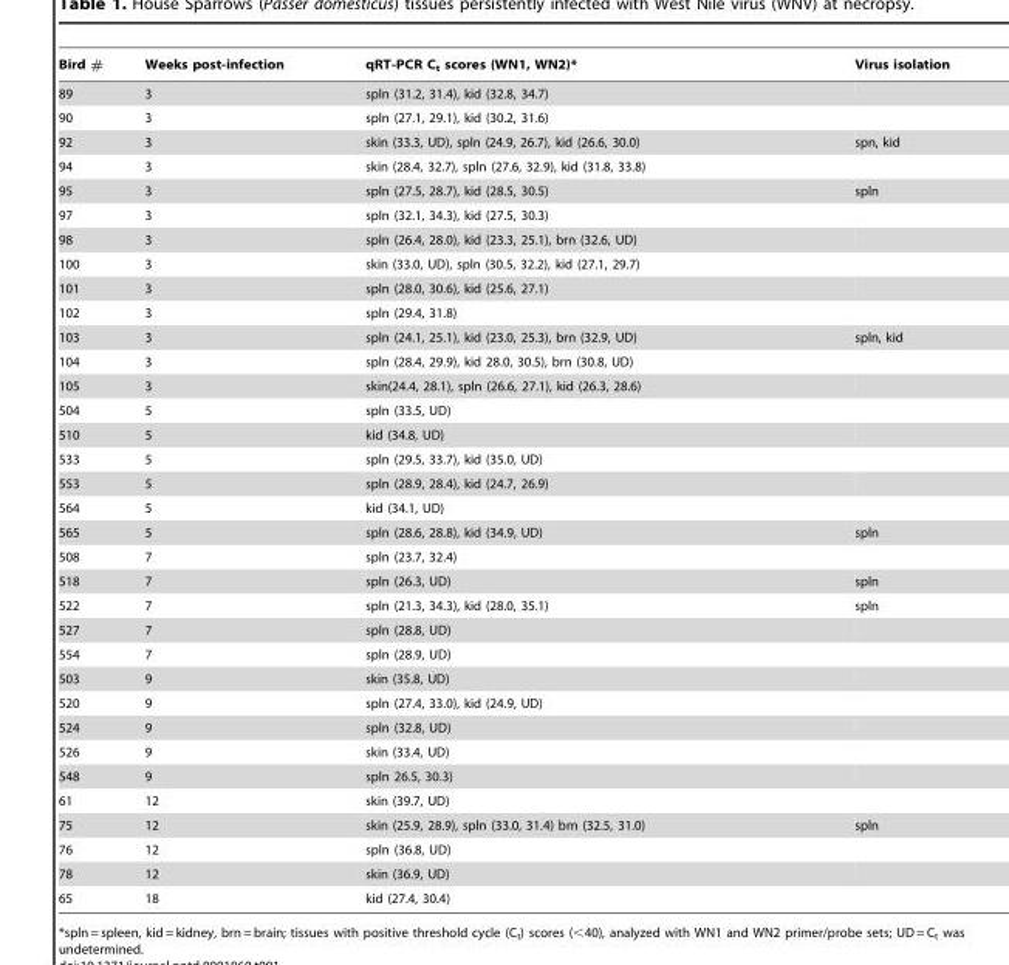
<table><thead><tr><td>Bird #</td><td>Weeks post-infection</td><td>qRT-PCR C<sub>t</sub> scores (WN1, WN2)*</td><td>Virus isolation</td></tr></thead><tbody><tr><td>89</td><td>3</td><td>spln (31.2, 31.4), kid (32.8, 34.7)</td><td></td></tr><tr><td>90</td><td>3</td><td>spln (27.1, 29.1), kid (30.2, 31.6)</td><td></td></tr><tr><td>92</td><td>3</td><td>skin (33.3, UD), spln (24.9, 26.7), kid (26.6, 30.0)</td><td>spn, kid</td></tr><tr><td>94</td><td>3</td><td>skin (28.4, 32.7), spln (27.6, 32.9), kid (31.8, 33.8)</td><td></td></tr><tr><td>95</td><td>3</td><td>spln (27.5, 28.7), kid (28.5, 30.5)</td><td>spln</td></tr><tr><td>97</td><td>3</td><td>spln (32.1, 34.3), kid (27.5, 30.3)</td><td></td></tr><tr><td>98</td><td>3</td><td>spln (26.4, 28.0), kid (23.3, 25.1), brn (32.6, UD)</td><td></td></tr><tr><td>100</td><td>3</td><td>skin (33.0, UD), spln (30.5, 32.2), kid (27.1, 29.7)</td><td></td></tr><tr><td>101</td><td>3</td><td>spln (28.0, 30.6), kid (25.6, 27.1)</td><td></td></tr><tr><td>102</td><td>3</td><td>spln (29.4, 31.8)</td><td></td></tr><tr><td>103</td><td>3</td><td>spln (24.1, 25.1), kid (23.0, 25.3), brn (32.9, UD)</td><td>spln, kid</td></tr><tr><td>104</td><td>3</td><td>spln (28.4, 29.9), kid 28.0, 30.5), brn (30.8, UD)</td><td></td></tr><tr><td>105</td><td>3</td><td>skin(24.4, 28.1), spln (26.6, 27.1), kid (26.3, 28.6)</td><td></td></tr><tr><td>504</td><td>5</td><td>spln (33.5, UD)</td><td></td></tr><tr><td>510</td><td>5</td><td>kid (34.8, UD)</td><td></td></tr><tr><td>533</td><td>5</td><td>spln (29.5, 33.7), kid (35.0, UD)</td><td></td></tr><tr><td>553</td><td>5</td><td>spln (28.9, 28.4), kid (24.7, 26.9)</td><td></td></tr><tr><td>564</td><td>5</td><td>kid (34.1, UD)</td><td></td></tr><tr><td>565</td><td>5</td><td>spln (28.6, 28.8), kid (34.9, UD)</td><td>spln</td></tr><tr><td>508</td><td>7</td><td>spln (23.7, 32.4)</td><td></td></tr><tr><td>518</td><td>7</td><td>spln (26.3, UD)</td><td>spln</td></tr><tr><td>522</td><td>7</td><td>spln (21.3, 34.3), kid (28.0, 35.1)</td><td>spln</td></tr><tr><td>527</td><td>7</td><td>spln (28.8, UD)</td><td></td></tr><tr><td>554</td><td>7</td><td>spln (28.9, UD)</td><td></td></tr><tr><td>503</td><td>9</td><td>skin (35.8, UD)</td><td></td></tr><tr><td>520</td><td>9</td><td>spln (27.4, 33.0), kid (24.9, UD)</td><td></td></tr><tr><td>524</td><td>9</td><td>spln (32.8, UD)</td><td></td></tr><tr><td>526</td><td>9</td><td>skin (33.4, UD)</td><td></td></tr><tr><td>548</td><td>9</td><td>spln 26.5, 30.3)</td><td></td></tr><tr><td>61</td><td>12</td><td>skin (39.7, UD)</td><td></td></tr><tr><td>75</td><td>12</td><td>skin (25.9, 28.9), spln (33.0, 31.4) brn (32.5, 31.0)</td><td>spln</td></tr><tr><td>76</td><td>12</td><td>spln (36.8, UD)</td><td></td></tr><tr><td>78</td><td>12</td><td>skin (36.9, UD)</td><td></td></tr><tr><td>65</td><td>18</td><td>kid (27.4, 30.4)</td><td></td></tr></tbody></table>